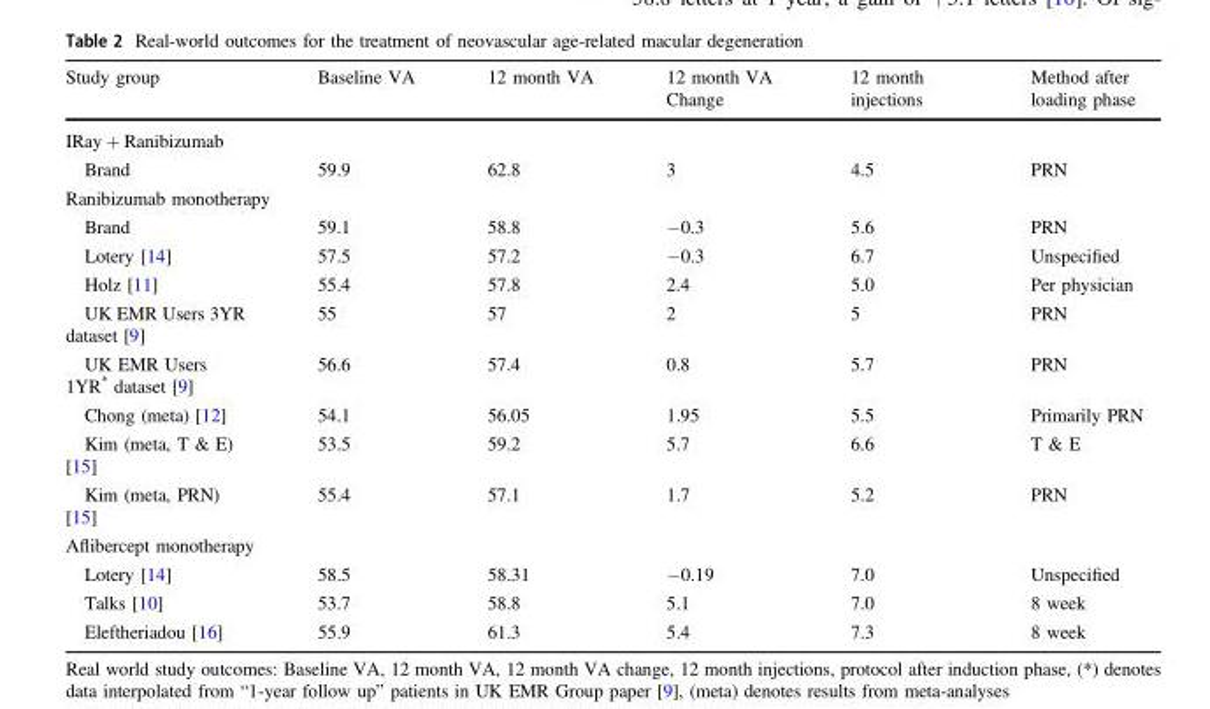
<table><thead><tr><td>Study group</td><td>Baseline VA</td><td>12 month VA</td><td>12 month VA Change</td><td>12 month injections</td><td>Method after loading phase</td></tr></thead><tbody><tr><td colspan="6">IRay + Ranibizumab</td></tr><tr><td>Brand</td><td>59.9</td><td>62.8</td><td>3</td><td>4.5</td><td>PRN</td></tr><tr><td colspan="6">Ranibizumab monotherapy</td></tr><tr><td>Brand</td><td>59.1</td><td>58.8</td><td>−0.3</td><td>5.6</td><td>PRN</td></tr><tr><td>Lotery [14]</td><td>57.5</td><td>57.2</td><td>−0.3</td><td>6.7</td><td>Unspecified</td></tr><tr><td>Holz [11]</td><td>55.4</td><td>57.8</td><td>2.4</td><td>5.0</td><td>Per physician</td></tr><tr><td>UK EMR Users 3YR dataset [9]</td><td>55</td><td>57</td><td>2</td><td>5</td><td>PRN</td></tr><tr><td>UK EMR Users 1YR* dataset [9]</td><td>56.6</td><td>57.4</td><td>0.8</td><td>5.7</td><td>PRN</td></tr><tr><td>Chong (meta) [12]</td><td>54.1</td><td>56.05</td><td>1.95</td><td>5.5</td><td>Primarily PRN</td></tr><tr><td>Kim (meta, T &amp; E) [15]</td><td>53.5</td><td>59.2</td><td>5.7</td><td>6.6</td><td>T &amp; E</td></tr><tr><td>Kim (meta, PRN) [15]</td><td>55.4</td><td>57.1</td><td>1.7</td><td>5.2</td><td>PRN</td></tr><tr><td colspan="6">Aflibercept monotherapy</td></tr><tr><td>Lotery [14]</td><td>58.5</td><td>58.31</td><td>−0.19</td><td>7.0</td><td>Unspecified</td></tr><tr><td>Talks [10]</td><td>53.7</td><td>58.8</td><td>5.1</td><td>7.0</td><td>8 week</td></tr><tr><td>Eleftheriadou [16]</td><td>55.9</td><td>61.3</td><td>5.4</td><td>7.3</td><td>8 week</td></tr></tbody></table>